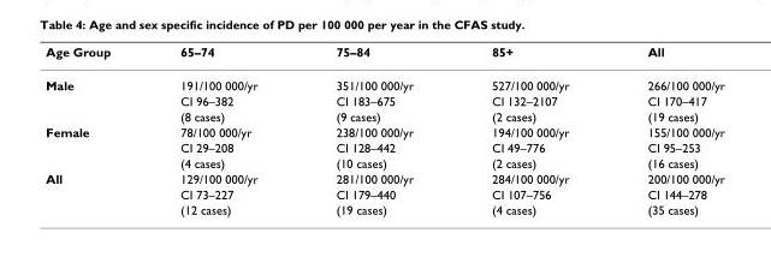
<table><thead><tr><td>Age Group</td><td>65–74</td><td>75–84</td><td>85+</td><td>All</td></tr></thead><tbody><tr><td rowspan="3">Male</td><td>191/100 000/yr</td><td>351/100 000/yr</td><td>527/100 000/yr</td><td>266/100 000/yr</td></tr><tr><td>CI 96–382</td><td>CI 183–675</td><td>CI 132–2107</td><td>CI 170–417</td></tr><tr><td>(8 cases)</td><td>(9 cases)</td><td>(2 cases)</td><td>(19 cases)</td></tr><tr><td rowspan="3">Female</td><td>78/100 000/yr</td><td>238/100 000/yr</td><td>194/100 000/yr</td><td>155/100 000/yr</td></tr><tr><td>CI 29–208</td><td>CI 128–442</td><td>CI 49–776</td><td>CI 95–253</td></tr><tr><td>(4 cases)</td><td>(10 cases)</td><td>(2 cases)</td><td>(16 cases)</td></tr><tr><td rowspan="3">All</td><td>129/100 000/yr</td><td>281/100 000/yr</td><td>284/100 000/yr</td><td>200/100 000/yr</td></tr><tr><td>CI 73–227</td><td>CI 179–440</td><td>CI 107–756</td><td>CI 144–278</td></tr><tr><td>(12 cases)</td><td>(19 cases)</td><td>(4 cases)</td><td>(35 cases)</td></tr></tbody></table>